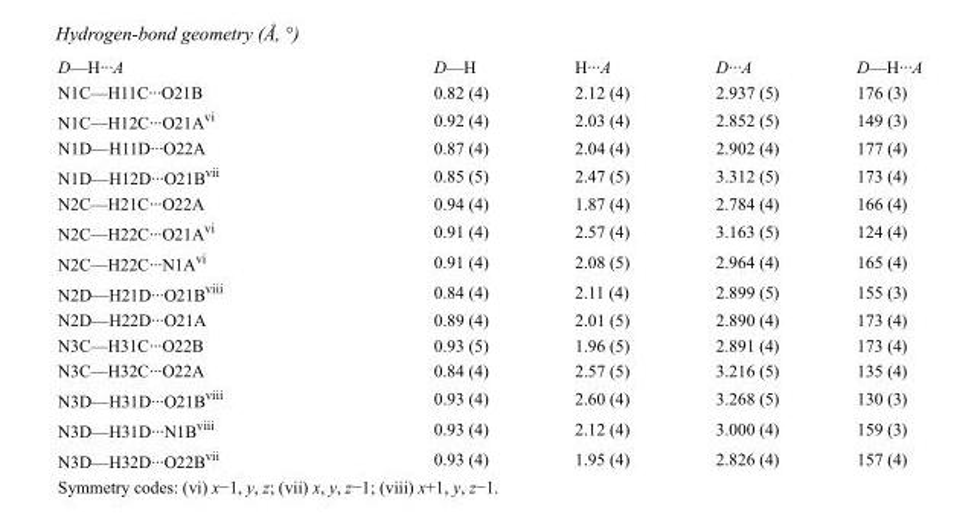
<table><tbody><tr><td>D—H···A</td><td>D—H</td><td>H···A</td><td>D···A</td><td>D—H···A</td></tr><tr><td>N1C—H11C···O21B</td><td>0.82 (4)</td><td>2.12 (4)</td><td>2.937 (5)</td><td>176 (3)</td></tr><tr><td>N1C—H12C···O21A<sup>vi</sup></td><td>0.92 (4)</td><td>2.03 (4)</td><td>2.852 (5)</td><td>149 (3)</td></tr><tr><td>N1D—H11D···O22A</td><td>0.87 (4)</td><td>2.04 (4)</td><td>2.902 (4)</td><td>177 (4)</td></tr><tr><td>N1D—H12D···O21B<sup>vii</sup></td><td>0.85 (5)</td><td>2.47 (5)</td><td>3.312 (5)</td><td>173 (4)</td></tr><tr><td>N2C—H21C···O22A</td><td>0.94 (4)</td><td>1.87 (4)</td><td>2.784 (4)</td><td>166 (4)</td></tr><tr><td>N2C—H22C···O21A<sup>vi</sup></td><td>0.91 (4)</td><td>2.57 (4)</td><td>3.163 (5)</td><td>124 (4)</td></tr><tr><td>N2C—H22C···N1A<sup>vi</sup></td><td>0.91 (4)</td><td>2.08 (5)</td><td>2.964 (4)</td><td>165 (4)</td></tr><tr><td>N2D—H21D···O21B<sup>viii</sup></td><td>0.84 (4)</td><td>2.11 (4)</td><td>2.899 (5)</td><td>155 (3)</td></tr><tr><td>N2D—H22D···O21A</td><td>0.89 (4)</td><td>2.01 (5)</td><td>2.890 (4)</td><td>173 (4)</td></tr><tr><td>N3C—H31C···O22B</td><td>0.93 (5)</td><td>1.96 (5)</td><td>2.891 (4)</td><td>173 (4)</td></tr><tr><td>N3C—H32C···O22A</td><td>0.84 (4)</td><td>2.57 (5)</td><td>3.216 (5)</td><td>135 (4)</td></tr><tr><td>N3D—H31D···O21B<sup>viii</sup></td><td>0.93 (4)</td><td>2.60 (4)</td><td>3.268 (5)</td><td>130 (3)</td></tr><tr><td>N3D—H31D···N1B<sup>viii</sup></td><td>0.93 (4)</td><td>2.12 (4)</td><td>3.000 (4)</td><td>159 (3)</td></tr><tr><td>N3D—H32D···O22B<sup>vii</sup></td><td>0.93 (4)</td><td>1.95 (4)</td><td>2.826 (4)</td><td>157 (4)</td></tr></tbody></table>